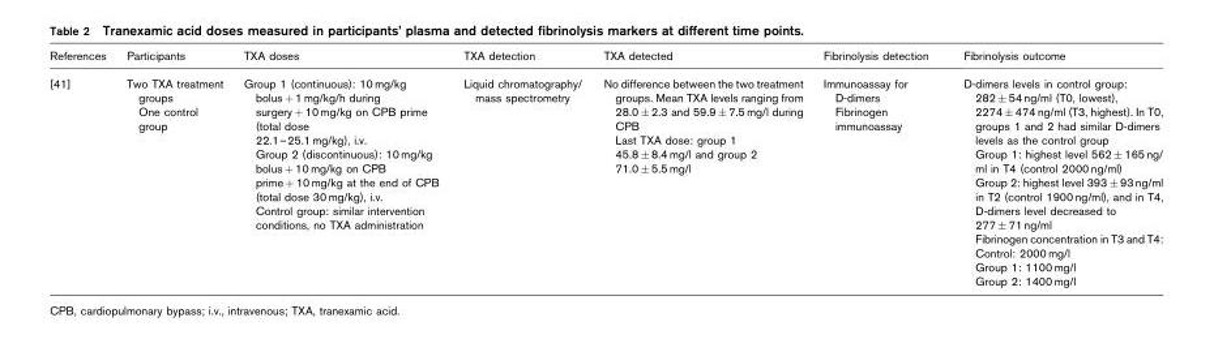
<table><thead><tr><td>References</td><td>Participants</td><td>TXA doses</td><td>TXA detection</td><td>TXA detected</td><td>Fibrinolysis detection</td><td>Fibrinolysis outcome</td></tr></thead><tbody><tr><td>[41]</td><td>Two TXA treatment groups One control group</td><td>Group 1 (continuous): 10 mg/kg bolus + 1 mg/kg/h during surgery + 10 mg/kg on CPB prime (total dose 22.1–25.1 mg/kg), i.v. Group 2 (discontinuous): 10 mg/kg bolus + 10 mg/kg on CPB prime + 10 mg/kg at the end of CPB (total dose 30 mg/kg), i.v. Control group: similar intervention conditions, no TXA administration</td><td>Liquid chromatography/ mass spectrometry</td><td>No difference between the two treatment groups. Mean TXA levels ranging from 28.0 ± 2.3 and 59.9 ± 7.5 mg/l during CPB Last TXA dose: group 1 45.8 ± 8.4 mg/l and group 2 71.0 ± 5.5 mg/l</td><td>Immunoassay for D-dimers Fibrinogen immunoassay</td><td>D-dimers levels in control group: 282 ± 54 ng/ml (T0, lowest), 2274 ± 474 ng/ml (T3, highest). In T0, groups 1 and 2 had similar D-dimers levels as the control group Group 1: highest level 562 ± 165 ng/ ml in T4 (control 2000 ng/ml) Group 2: highest level 393 ± 93 ng/ml in T2 (control 1900 ng/ml), and in T4, D-dimers level decreased to 277 ± 71 ng/ml Fibrinogen concentration in T3 and T4: Control: 2000 mg/l Group 1: 1100 mg/l Group 2: 1400 mg/l</td></tr></tbody></table>